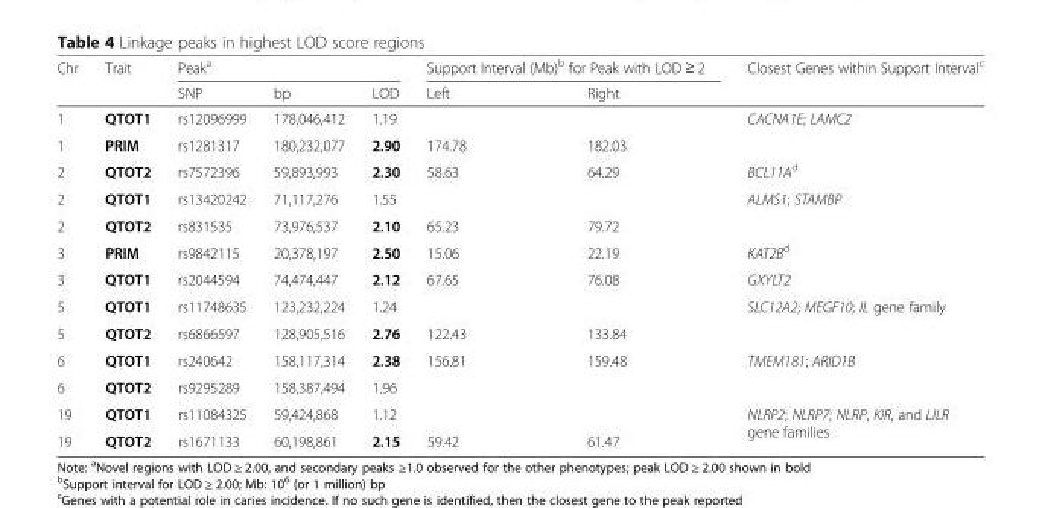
<table><thead><tr><td rowspan="2">Chr</td><td rowspan="2">Trait</td><td colspan="3">Peak<sup>a</sup></td><td colspan="2">Support Interval (Mb)<sup>b</sup> for Peak with LOD ≥ 2</td><td rowspan="2">Closest Genes within Support Interval<sup>c</sup></td></tr><tr><td>SNP</td><td>bp</td><td>LOD</td><td>Left</td><td>Right</td></tr></thead><tbody><tr><td>1</td><td>QTOT1</td><td>rs12096999</td><td>178,046,412</td><td>1.19</td><td></td><td></td><td rowspan="2">CACNA1E; LAMC2</td></tr><tr><td>1</td><td>PRIM</td><td>rs1281317</td><td>180,232,077</td><td>2.90</td><td>174.78</td><td>182.03</td></tr><tr><td>2</td><td>QTOT2</td><td>rs7572396</td><td>59,893,993</td><td>2.30</td><td>58.63</td><td>64.29</td><td>BCL11A<sup>d</sup></td></tr><tr><td>2</td><td>QTOT1</td><td>rs13420242</td><td>71,117,276</td><td>1.55</td><td></td><td></td><td rowspan="2">ALMS1; STAMBP</td></tr><tr><td>2</td><td>QTOT2</td><td>rs831535</td><td>73,976,537</td><td>2.10</td><td>65.23</td><td>79.72</td></tr><tr><td>3</td><td>PRIM</td><td>rs9842115</td><td>20,378,197</td><td>2.50</td><td>15.06</td><td>22.19</td><td>KAT2B<sup>d</sup></td></tr><tr><td>3</td><td>QTOT1</td><td>rs2044594</td><td>74,474,447</td><td>2.12</td><td>67.65</td><td>76.08</td><td>GXYLT2</td></tr><tr><td>5</td><td>QTOT1</td><td>rs11748635</td><td>123,232,224</td><td>1.24</td><td></td><td></td><td rowspan="2">SLC12A2; MEGF10; IL gene family</td></tr><tr><td>5</td><td>QTOT2</td><td>rs6866597</td><td>128,905,516</td><td>2.76</td><td>122.43</td><td>133.84</td></tr><tr><td>6</td><td>QTOT1</td><td>rs240642</td><td>158,117,314</td><td>2.38</td><td>156.81</td><td>159.48</td><td rowspan="2">TMEM181; ARID1B</td></tr><tr><td>6</td><td>QTOT2</td><td>rs9295289</td><td>158,387,494</td><td>1.96</td><td></td><td></td></tr><tr><td>19</td><td>QTOT1</td><td>rs11084325</td><td>59,424,868</td><td>1.12</td><td></td><td></td><td rowspan="2">NLRP2; NLRP7; NLRP, KIR, and LILR gene families</td></tr><tr><td>19</td><td>QTOT2</td><td>rs1671133</td><td>60,198,861</td><td>2.15</td><td>59.42</td><td>61.47</td></tr></tbody></table>